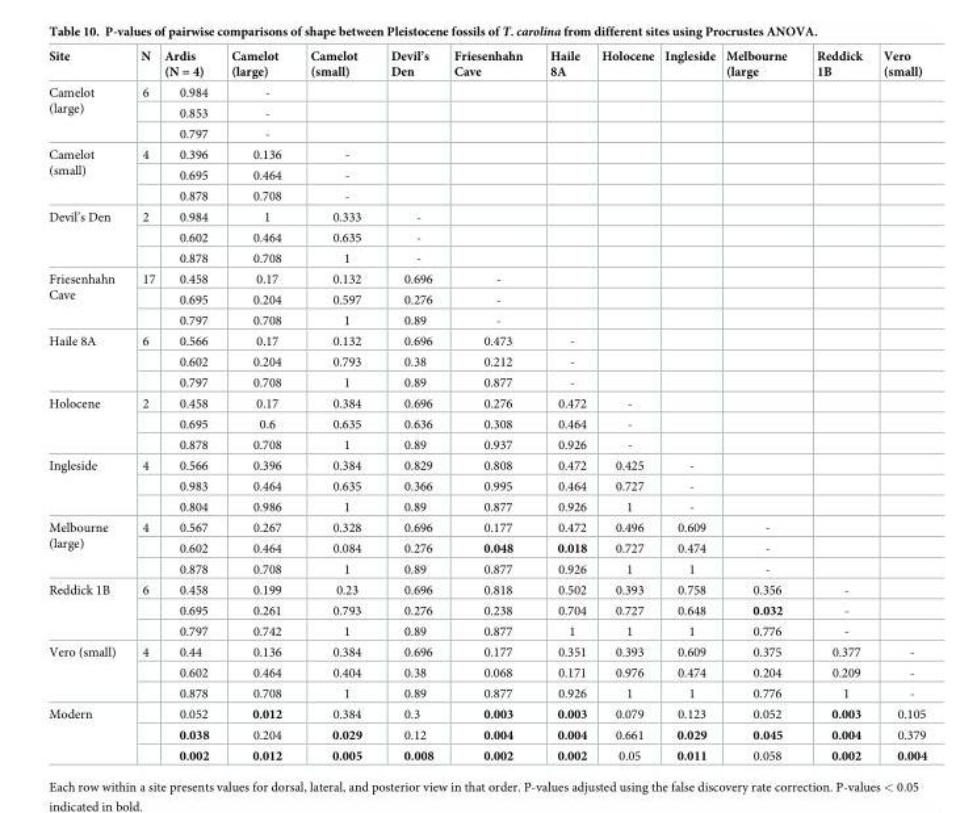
<table><thead><tr><td>Site</td><td>N</td><td>Ardis (N = 4)</td><td>Camelot (large)</td><td>Camelot (small)</td><td>Devil’s Den</td><td>Friesenhahn Cave</td><td>Haile 8A</td><td>Holocene</td><td>Ingleside</td><td>Melbourne (large</td><td>Reddick 1B</td><td>Vero (small)</td></tr></thead><tbody><tr><td rowspan="3">Camelot (large)</td><td>6</td><td>0.984</td><td>-</td><td></td><td></td><td></td><td></td><td></td><td></td><td></td><td></td><td></td></tr><tr><td></td><td>0.853</td><td>-</td><td></td><td></td><td></td><td></td><td></td><td></td><td></td><td></td><td></td></tr><tr><td></td><td>0.797</td><td>-</td><td></td><td></td><td></td><td></td><td></td><td></td><td></td><td></td><td></td></tr><tr><td rowspan="3">Camelot (small)</td><td>4</td><td>0.396</td><td>0.136</td><td>-</td><td></td><td></td><td></td><td></td><td></td><td></td><td></td><td></td></tr><tr><td></td><td>0.695</td><td>0.464</td><td>-</td><td></td><td></td><td></td><td></td><td></td><td></td><td></td><td></td></tr><tr><td></td><td>0.878</td><td>0.708</td><td>-</td><td></td><td></td><td></td><td></td><td></td><td></td><td></td><td></td></tr><tr><td rowspan="3">Devil’s Den</td><td>2</td><td>0.984</td><td>1</td><td>0.333</td><td>-</td><td></td><td></td><td></td><td></td><td></td><td></td><td></td></tr><tr><td></td><td>0.602</td><td>0.464</td><td>0.635</td><td>-</td><td></td><td></td><td></td><td></td><td></td><td></td><td></td></tr><tr><td></td><td>0.878</td><td>0.708</td><td>1</td><td>-</td><td></td><td></td><td></td><td></td><td></td><td></td><td></td></tr><tr><td rowspan="3">Friesenhahn Cave</td><td>17</td><td>0.458</td><td>0.17</td><td>0.132</td><td>0.696</td><td>-</td><td></td><td></td><td></td><td></td><td></td><td></td></tr><tr><td></td><td>0.695</td><td>0.204</td><td>0.597</td><td>0.276</td><td>-</td><td></td><td></td><td></td><td></td><td></td><td></td></tr><tr><td></td><td>0.797</td><td>0.708</td><td>1</td><td>0.89</td><td>-</td><td></td><td></td><td></td><td></td><td></td><td></td></tr><tr><td rowspan="3">Haile 8A</td><td>6</td><td>0.566</td><td>0.17</td><td>0.132</td><td>0.696</td><td>0.473</td><td>-</td><td></td><td></td><td></td><td></td><td></td></tr><tr><td></td><td>0.602</td><td>0.204</td><td>0.793</td><td>0.38</td><td>0.212</td><td>-</td><td></td><td></td><td></td><td></td><td></td></tr><tr><td></td><td>0.797</td><td>0.708</td><td>1</td><td>0.89</td><td>0.877</td><td>-</td><td></td><td></td><td></td><td></td><td></td></tr><tr><td rowspan="3">Holocene</td><td>2</td><td>0.458</td><td>0.17</td><td>0.384</td><td>0.696</td><td>0.276</td><td>0.472</td><td>-</td><td></td><td></td><td></td><td></td></tr><tr><td></td><td>0.695</td><td>0.6</td><td>0.635</td><td>0.636</td><td>0.308</td><td>0.464</td><td>-</td><td></td><td></td><td></td><td></td></tr><tr><td></td><td>0.878</td><td>0.708</td><td>1</td><td>0.89</td><td>0.937</td><td>0.926</td><td>-</td><td></td><td></td><td></td><td></td></tr><tr><td rowspan="3">Ingleside</td><td>4</td><td>0.566</td><td>0.396</td><td>0.384</td><td>0.829</td><td>0.808</td><td>0.472</td><td>0.425</td><td>-</td><td></td><td></td><td></td></tr><tr><td></td><td>0.983</td><td>0.464</td><td>0.635</td><td>0.366</td><td>0.995</td><td>0.464</td><td>0.727</td><td>-</td><td></td><td></td><td></td></tr><tr><td></td><td>0.804</td><td>0.986</td><td>1</td><td>0.89</td><td>0.877</td><td>0.926</td><td>1</td><td>-</td><td></td><td></td><td></td></tr><tr><td rowspan="3">Melbourne (large)</td><td>4</td><td>0.567</td><td>0.267</td><td>0.328</td><td>0.696</td><td>0.177</td><td>0.472</td><td>0.496</td><td>0.609</td><td>-</td><td></td><td></td></tr><tr><td></td><td>0.602</td><td>0.464</td><td>0.084</td><td>0.276</td><td>0.048</td><td>0.018</td><td>0.727</td><td>0.474</td><td>-</td><td></td><td></td></tr><tr><td></td><td>0.878</td><td>0.708</td><td>1</td><td>0.89</td><td>0.877</td><td>0.926</td><td>1</td><td>1</td><td>-</td><td></td><td></td></tr><tr><td rowspan="3">Reddick 1B</td><td>6</td><td>0.458</td><td>0.199</td><td>0.23</td><td>0.696</td><td>0.818</td><td>0.502</td><td>0.393</td><td>0.758</td><td>0.356</td><td>-</td><td></td></tr><tr><td></td><td>0.695</td><td>0.261</td><td>0.793</td><td>0.276</td><td>0.238</td><td>0.704</td><td>0.727</td><td>0.648</td><td>0.032</td><td>-</td><td></td></tr><tr><td></td><td>0.797</td><td>0.742</td><td>1</td><td>0.89</td><td>0.877</td><td>1</td><td>1</td><td>1</td><td>0.776</td><td>-</td><td></td></tr><tr><td rowspan="3">Vero (small)</td><td>4</td><td>0.44</td><td>0.136</td><td>0.384</td><td>0.696</td><td>0.177</td><td>0.351</td><td>0.393</td><td>0.609</td><td>0.375</td><td>0.377</td><td>-</td></tr><tr><td></td><td>0.602</td><td>0.464</td><td>0.404</td><td>0.38</td><td>0.068</td><td>0.171</td><td>0.976</td><td>0.474</td><td>0.204</td><td>0.209</td><td>-</td></tr><tr><td></td><td>0.878</td><td>0.708</td><td>1</td><td>0.89</td><td>0.877</td><td>0.926</td><td>1</td><td>1</td><td>0.776</td><td>1</td><td>-</td></tr><tr><td rowspan="3">Modern</td><td></td><td>0.052</td><td>0.012</td><td>0.384</td><td>0.3</td><td>0.003</td><td>0.003</td><td>0.079</td><td>0.123</td><td>0.052</td><td>0.003</td><td>0.105</td></tr><tr><td></td><td>0.038</td><td>0.204</td><td>0.029</td><td>0.12</td><td>0.004</td><td>0.004</td><td>0.661</td><td>0.029</td><td>0.045</td><td>0.004</td><td>0.379</td></tr><tr><td></td><td>0.002</td><td>0.012</td><td>0.005</td><td>0.008</td><td>0.002</td><td>0.002</td><td>0.05</td><td>0.011</td><td>0.058</td><td>0.002</td><td>0.004</td></tr></tbody></table>